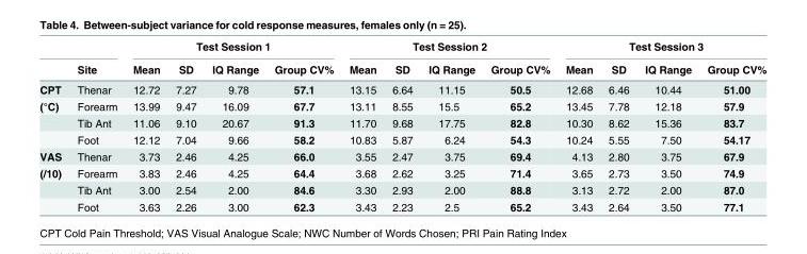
<table><thead><tr><td rowspan="2"></td><td rowspan="2">Site</td><td colspan="4">Test Session 1</td><td colspan="4">Test Session 2</td><td colspan="4">Test Session 3</td></tr><tr><td>Mean</td><td>SD</td><td>IQ Range</td><td>Group CV%</td><td>Mean</td><td>SD</td><td>IQ Range</td><td>Group CV%</td><td>Mean</td><td>SD</td><td>IQ Range</td><td>Group CV%</td></tr></thead><tbody><tr><td>CPT</td><td>Thenar</td><td>12.72</td><td>7.27</td><td>9.78</td><td>57.1</td><td>13.15</td><td>6.64</td><td>11.15</td><td>50.5</td><td>12.68</td><td>6.46</td><td>10.44</td><td>51.00</td></tr><tr><td rowspan="3">(°C)</td><td>Forearm</td><td>13.99</td><td>9.47</td><td>16.09</td><td>67.7</td><td>13.11</td><td>8.55</td><td>15.5</td><td>65.2</td><td>13.45</td><td>7.78</td><td>12.18</td><td>57.9</td></tr><tr><td>Tib Ant</td><td>11.06</td><td>9.10</td><td>20.67</td><td>91.3</td><td>11.70</td><td>9.68</td><td>17.75</td><td>82.8</td><td>10.30</td><td>8.62</td><td>15.36</td><td>83.7</td></tr><tr><td>Foot</td><td>12.12</td><td>7.04</td><td>9.66</td><td>58.2</td><td>10.83</td><td>5.87</td><td>6.24</td><td>54.3</td><td>10.24</td><td>5.55</td><td>7.50</td><td>54.17</td></tr><tr><td>VAS</td><td>Thenar</td><td>3.73</td><td>2.46</td><td>4.25</td><td>66.0</td><td>3.55</td><td>2.47</td><td>3.75</td><td>69.4</td><td>4.13</td><td>2.80</td><td>3.75</td><td>67.9</td></tr><tr><td rowspan="3">(/10)</td><td>Forearm</td><td>3.83</td><td>2.46</td><td>4.25</td><td>64.4</td><td>3.68</td><td>2.62</td><td>3.25</td><td>71.4</td><td>3.65</td><td>2.73</td><td>3.50</td><td>74.9</td></tr><tr><td>Tib Ant</td><td>3.00</td><td>2.54</td><td>2.00</td><td>84.6</td><td>3.30</td><td>2.93</td><td>2.00</td><td>88.8</td><td>3.13</td><td>2.72</td><td>2.00</td><td>87.0</td></tr><tr><td>Foot</td><td>3.63</td><td>2.26</td><td>3.00</td><td>62.3</td><td>3.43</td><td>2.23</td><td>2.5</td><td>65.2</td><td>3.43</td><td>2.64</td><td>3.50</td><td>77.1</td></tr></tbody></table>